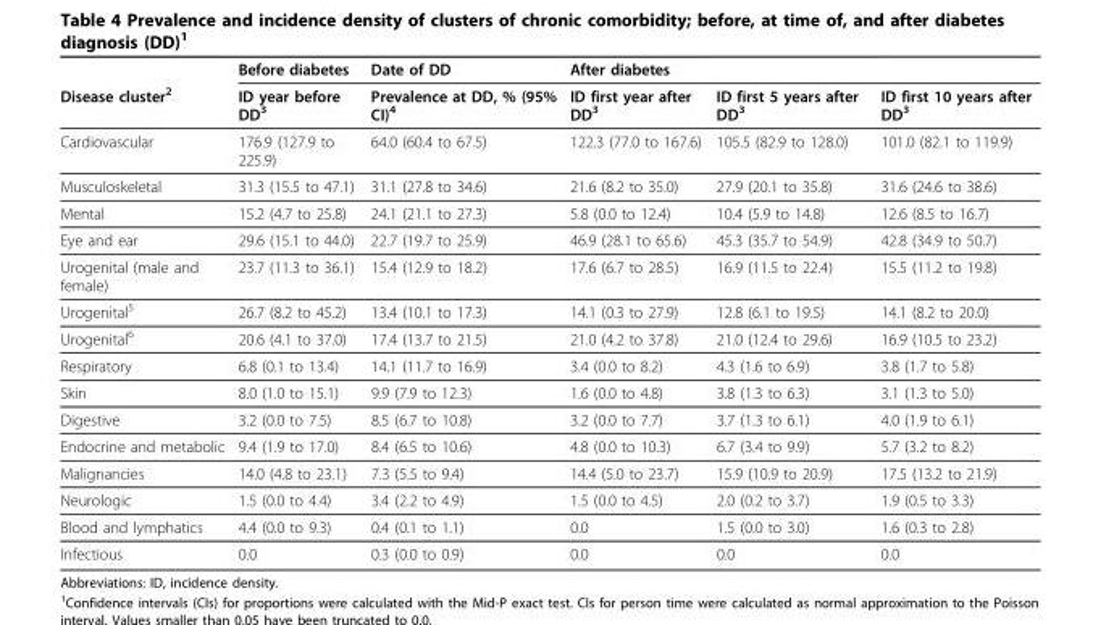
<table><thead><tr><td rowspan="2">Disease cluster<sup>2</sup></td><td rowspan="2">Before diabetes ID year before DD<sup>3</sup></td><td rowspan="2">Date of DD Prevalence at DD, % (95% CI)<sup>4</sup></td><td colspan="3">After diabetes</td></tr><tr><td>ID first year after DD<sup>3</sup></td><td>ID first 5 years after DD<sup>3</sup></td><td>ID first 10 years after DD<sup>3</sup></td></tr></thead><tbody><tr><td>Cardiovascular</td><td>176.9 (127.9 to 225.9)</td><td>64.0 (60.4 to 67.5)</td><td>122.3 (77.0 to 167.6)</td><td>105.5 (82.9 to 128.0)</td><td>101.0 (82.1 to 119.9)</td></tr><tr><td>Musculoskeletal</td><td>31.3 (15.5 to 47.1)</td><td>31.1 (27.8 to 34.6)</td><td>21.6 (8.2 to 35.0)</td><td>27.9 (20.1 to 35.8)</td><td>31.6 (24.6 to 38.6)</td></tr><tr><td>Mental</td><td>15.2 (4.7 to 25.8)</td><td>24.1 (21.1 to 27.3)</td><td>5.8 (0.0 to 12.4)</td><td>10.4 (5.9 to 14.8)</td><td>12.6 (8.5 to 16.7)</td></tr><tr><td>Eye and ear</td><td>29.6 (15.1 to 44.0)</td><td>22.7 (19.7 to 25.9)</td><td>46.9 (28.1 to 65.6)</td><td>45.3 (35.7 to 54.9)</td><td>42.8 (34.9 to 50.7)</td></tr><tr><td>Urogenital (male and female)</td><td>23.7 (11.3 to 36.1)</td><td>15.4 (12.9 to 18.2)</td><td>17.6 (6.7 to 28.5)</td><td>16.9 (11.5 to 22.4)</td><td>15.5 (11.2 to 19.8)</td></tr><tr><td>Urogenital<sup>5</sup></td><td>26.7 (8.2 to 45.2)</td><td>13.4 (10.1 to 17.3)</td><td>14.1 (0.3 to 27.9)</td><td>12.8 (6.1 to 19.5)</td><td>14.1 (8.2 to 20.0)</td></tr><tr><td>Urogenital<sup>6</sup></td><td>20.6 (4.1 to 37.0)</td><td>17.4 (13.7 to 21.5)</td><td>21.0 (4.2 to 37.8)</td><td>21.0 (12.4 to 29.6)</td><td>16.9 (10.5 to 23.2)</td></tr><tr><td>Respiratory</td><td>6.8 (0.1 to 13.4)</td><td>14.1 (11.7 to 16.9)</td><td>3.4 (0.0 to 8.2)</td><td>4.3 (1.6 to 6.9)</td><td>3.8 (1.7 to 5.8)</td></tr><tr><td>Skin</td><td>8.0 (1.0 to 15.1)</td><td>9.9 (7.9 to 12.3)</td><td>1.6 (0.0 to 4.8)</td><td>3.8 (1.3 to 6.3)</td><td>3.1 (1.3 to 5.0)</td></tr><tr><td>Digestive</td><td>3.2 (0.0 to 7.5)</td><td>8.5 (6.7 to 10.8)</td><td>3.2 (0.0 to 7.7)</td><td>3.7 (1.3 to 6.1)</td><td>4.0 (1.9 to 6.1)</td></tr><tr><td>Endocrine and metabolic</td><td>9.4 (1.9 to 17.0)</td><td>8.4 (6.5 to 10.6)</td><td>4.8 (0.0 to 10.3)</td><td>6.7 (3.4 to 9.9)</td><td>5.7 (3.2 to 8.2)</td></tr><tr><td>Malignancies</td><td>14.0 (4.8 to 23.1)</td><td>7.3 (5.5 to 9.4)</td><td>14.4 (5.0 to 23.7)</td><td>15.9 (10.9 to 20.9)</td><td>17.5 (13.2 to 21.9)</td></tr><tr><td>Neurologic</td><td>1.5 (0.0 to 4.4)</td><td>3.4 (2.2 to 4.9)</td><td>1.5 (0.0 to 4.5)</td><td>2.0 (0.2 to 3.7)</td><td>1.9 (0.5 to 3.3)</td></tr><tr><td>Blood and lymphatics</td><td>4.4 (0.0 to 9.3)</td><td>0.4 (0.1 to 1.1)</td><td>0.0</td><td>1.5 (0.0 to 3.0)</td><td>1.6 (0.3 to 2.8)</td></tr><tr><td>Infectious</td><td>0.0</td><td>0.3 (0.0 to 0.9)</td><td>0.0</td><td>0.0</td><td>0.0</td></tr></tbody></table>